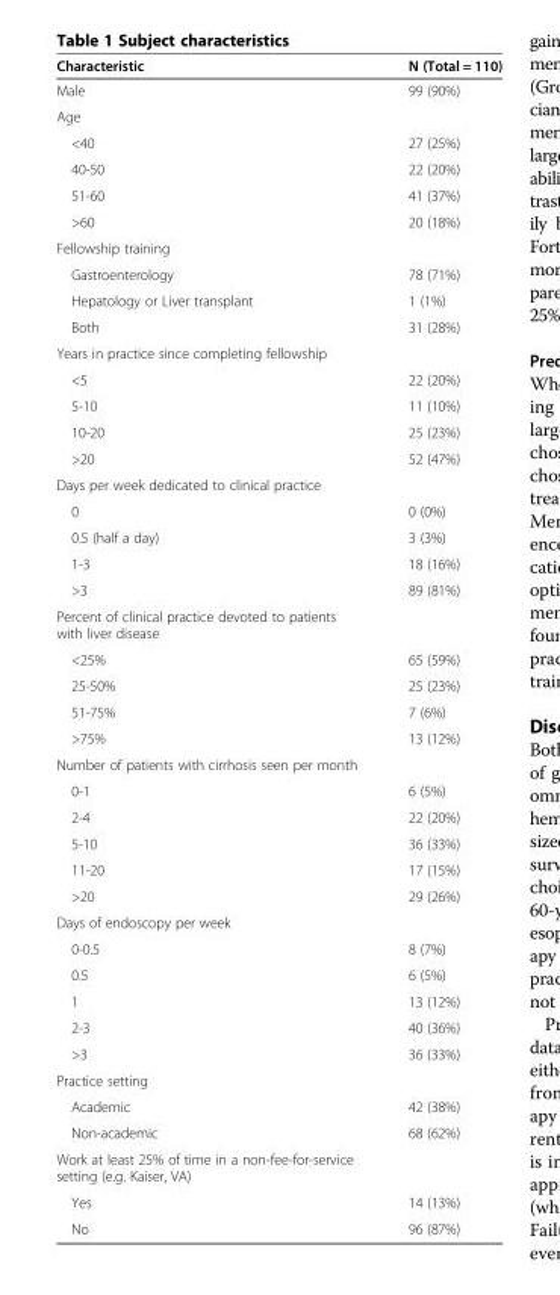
<table><thead><tr><td>Characteristic</td><td>N (Total = 110)</td></tr></thead><tbody><tr><td>Male</td><td>99 (90%)</td></tr><tr><td colspan="2">Age</td></tr><tr><td>&lt;40</td><td>27 (25%)</td></tr><tr><td>40-50</td><td>22 (20%)</td></tr><tr><td>51-60</td><td>41 (37%)</td></tr><tr><td>&gt;60</td><td>20 (18%)</td></tr><tr><td colspan="2">Fellowship training</td></tr><tr><td>Gastroenterology</td><td>78 (71%)</td></tr><tr><td>Hepatology or Liver transplant</td><td>1 (1%)</td></tr><tr><td>Both</td><td>31 (28%)</td></tr><tr><td colspan="2">Years in practice since completing fellowship</td></tr><tr><td>&lt;5</td><td>22 (20%)</td></tr><tr><td>5-10</td><td>11 (10%)</td></tr><tr><td>10-20</td><td>25 (23%)</td></tr><tr><td>&gt;20</td><td>52 (47%)</td></tr><tr><td colspan="2">Days per week dedicated to clinical practice</td></tr><tr><td>0</td><td>0 (0%)</td></tr><tr><td>0.5 (half a day)</td><td>3 (3%)</td></tr><tr><td>1-3</td><td>18 (16%)</td></tr><tr><td>&gt;3</td><td>89 (81%)</td></tr><tr><td colspan="2">Percent of clinical practice devoted to patients with liver disease</td></tr><tr><td>&lt;25%</td><td>65 (59%)</td></tr><tr><td>25-50%</td><td>25 (23%)</td></tr><tr><td>51-75%</td><td>7 (6%)</td></tr><tr><td>&gt;75%</td><td>13 (12%)</td></tr><tr><td colspan="2">Number of patients with cirrhosis seen per month</td></tr><tr><td>0-1</td><td>6 (5%)</td></tr><tr><td>2-4</td><td>22 (20%)</td></tr><tr><td>5-10</td><td>36 (33%)</td></tr><tr><td>11-20</td><td>17 (15%)</td></tr><tr><td>&gt;20</td><td>29 (26%)</td></tr><tr><td colspan="2">Days of endoscopy per week</td></tr><tr><td>0-0.5</td><td>8 (7%)</td></tr><tr><td>0.5</td><td>6 (5%)</td></tr><tr><td>1</td><td>13 (12%)</td></tr><tr><td>2-3</td><td>40 (36%)</td></tr><tr><td>&gt;3</td><td>36 (33%)</td></tr><tr><td colspan="2">Practice setting</td></tr><tr><td>Academic</td><td>42 (38%)</td></tr><tr><td>Non-academic</td><td>68 (62%)</td></tr><tr><td colspan="2">Work at least 25% of time in a non-fee-for-service setting (e.g. Kaiser, VA)</td></tr><tr><td>Yes</td><td>14 (13%)</td></tr><tr><td>No</td><td>96 (87%)</td></tr></tbody></table>